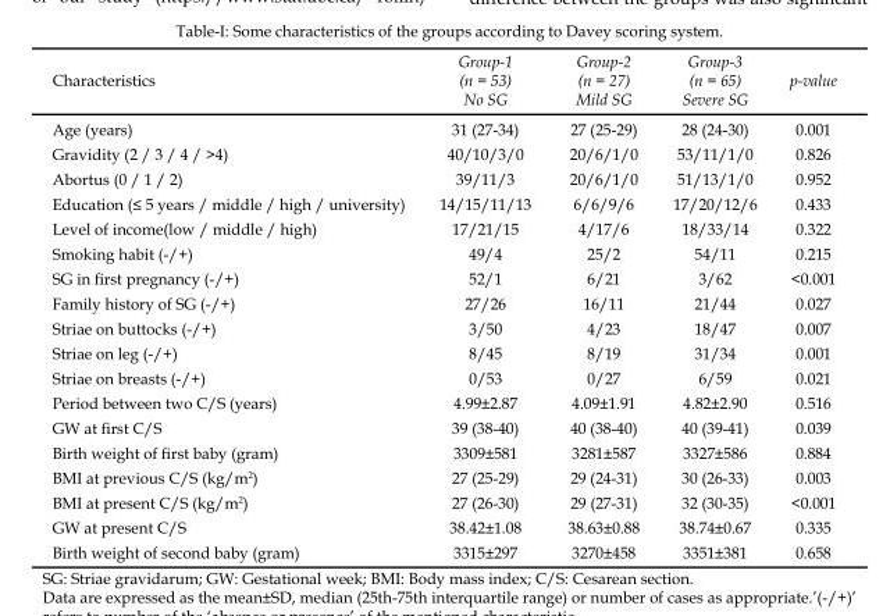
<table><thead><tr><td>Characteristics</td><td>Group-1 (n = 53) No SG</td><td>Group-2 (n = 27) Mild SG</td><td>Group-3 (n = 65) Severe SG</td><td>p-value</td></tr></thead><tbody><tr><td>Age (years)</td><td>31 (27-34)</td><td>27 (25-29)</td><td>28 (24-30)</td><td>0.001</td></tr><tr><td>Gravidity (2 / 3 / 4 / &gt;4)</td><td>40/10/3/0</td><td>20/6/1/0</td><td>53/11/1/0</td><td>0.826</td></tr><tr><td>Abortus (0 / 1 / 2)</td><td>39/11/3</td><td>20/6/1/0</td><td>51/13/1/0</td><td>0.952</td></tr><tr><td>Education (≤ 5 years / middle / high / university)</td><td>14/15/11/13</td><td>6/6/9/6</td><td>17/20/12/6</td><td>0.433</td></tr><tr><td>Level of income(low / middle / high)</td><td>17/21/15</td><td>4/17/6</td><td>18/33/14</td><td>0.322</td></tr><tr><td>Smoking habit (-/+)</td><td>49/4</td><td>25/2</td><td>54/11</td><td>0.215</td></tr><tr><td>SG in first pregnancy (-/+)</td><td>52/1</td><td>6/21</td><td>3/62</td><td>&lt;0.001</td></tr><tr><td>Family history of SG (-/+)</td><td>27/26</td><td>16/11</td><td>21/44</td><td>0.027</td></tr><tr><td>Striae on buttocks (-/+)</td><td>3/50</td><td>4/23</td><td>18/47</td><td>0.007</td></tr><tr><td>Striae on leg (-/+)</td><td>8/45</td><td>8/19</td><td>31/34</td><td>0.001</td></tr><tr><td>Striae on breasts (-/+)</td><td>0/53</td><td>0/27</td><td>6/59</td><td>0.021</td></tr><tr><td>Period between two C/S (years)</td><td>4.99±2.87</td><td>4.09±1.91</td><td>4.82±2.90</td><td>0.516</td></tr><tr><td>GW at first C/S</td><td>39 (38-40)</td><td>40 (38-40)</td><td>40 (39-41)</td><td>0.039</td></tr><tr><td>Birth weight of first baby (gram)</td><td>3309±581</td><td>3281±587</td><td>3327±586</td><td>0.884</td></tr><tr><td>BMI at previous C/S (kg/m<sup>2</sup>)</td><td>27 (25-29)</td><td>29 (24-31)</td><td>30 (26-33)</td><td>0.003</td></tr><tr><td>BMI at present C/S (kg/m<sup>2</sup>)</td><td>27 (26-30)</td><td>29 (27-31)</td><td>32 (30-35)</td><td>&lt;0.001</td></tr><tr><td>GW at present C/S</td><td>38.42±1.08</td><td>38.63±0.88</td><td>38.74±0.67</td><td>0.335</td></tr><tr><td>Birth weight of second baby (gram)</td><td>3315±297</td><td>3270±458</td><td>3351±381</td><td>0.658</td></tr></tbody></table>